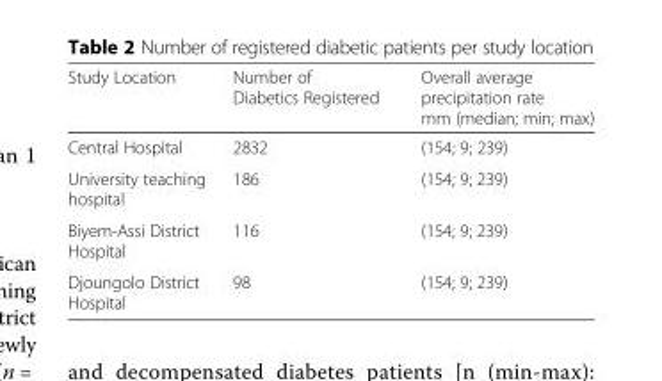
<table><thead><tr><td>Study Location</td><td>Number of Diabetics Registered</td><td>Overall average precipitation rate mm (median; min; max)</td></tr></thead><tbody><tr><td>Central Hospital</td><td>2832</td><td>(154; 9; 239)</td></tr><tr><td>University teaching hospital</td><td>186</td><td>(154; 9; 239)</td></tr><tr><td>Biyem-Assi District Hospital</td><td>116</td><td>(154; 9; 239)</td></tr><tr><td>Djoungolo District Hospital</td><td>98</td><td>(154; 9; 239)</td></tr></tbody></table>